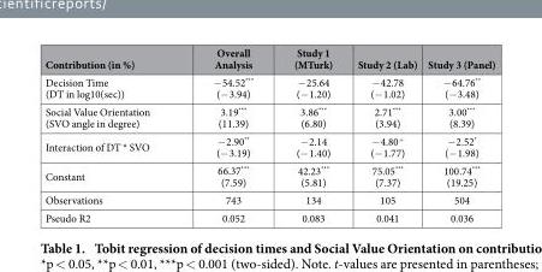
<table><thead><tr><td>Contribution (in %)</td><td>Overall Analysis</td><td>Study 1 (MTurk)</td><td>Study 2 (Lab)</td><td>Study 3 (Panel)</td></tr></thead><tbody><tr><td>Decision Time (DT in log10(sec))</td><td>− 54.52*** (− 3.94)</td><td>− 25.64 (− 1.20)</td><td>− 42.78 (− 1.02)</td><td>− 64.76** (− 3.48)</td></tr><tr><td>Social Value Orientation (SVO angle in degree)</td><td>3.19*** (11.39)</td><td>3.86*** (6.80)</td><td>2.71*** (3.94)</td><td>3.00*** (8.39)</td></tr><tr><td>Interaction of DT * SVO</td><td>− 2.90** (− 3.19)</td><td>− 2.14 (− 1.40)</td><td>− 4.80<sup>+</sup> (− 1.77)</td><td>− 2.52* (− 1.98)</td></tr><tr><td>Constant</td><td>66.37*** (7.59)</td><td>42.23*** (5.81)</td><td>75.05*** (7.37)</td><td>100.74*** (19.25)</td></tr><tr><td>Observations</td><td>743</td><td>134</td><td>105</td><td>504</td></tr><tr><td>Pseudo R2</td><td>0.052</td><td>0.083</td><td>0.041</td><td>0.036</td></tr></tbody></table>